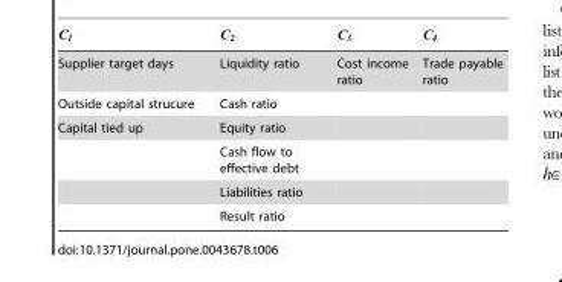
<table><tbody><tr><td>Supplier target days</td><td>Liquidity ratio</td><td>Cost income ratio</td><td>Trade payable ratio</td></tr><tr><td>Outside capital strucure</td><td>Cash ratio</td><td></td><td></td></tr><tr><td rowspan="4">Capital tied up</td><td>Equity ratio</td><td></td><td></td></tr><tr><td>Cash flow to effective debt</td><td></td><td></td></tr><tr><td>Liabilities ratio</td><td></td><td></td></tr><tr><td>Result ratio</td><td></td><td></td></tr></tbody></table>